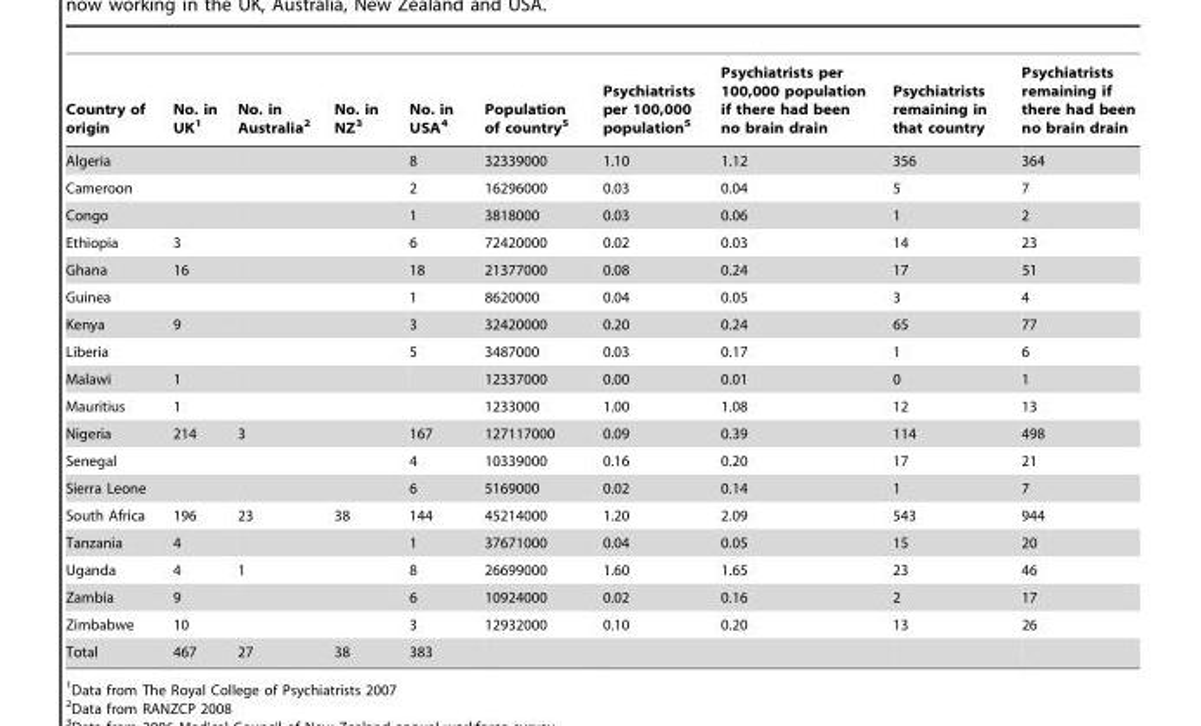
<table><thead><tr><td>Country of origin</td><td>No. in UK<sup>1</sup></td><td>No. in Australia<sup>2</sup></td><td>No. in NZ<sup>3</sup></td><td>No. in USA<sup>4</sup></td><td>Population of country<sup>5</sup></td><td>Psychiatrists per 100,000 population<sup>5</sup></td><td>Psychiatrists per 100,000 population if there had been no brain drain</td><td>Psychiatrists remaining in that country</td><td>Psychiatrists remaining if there had been no brain drain</td></tr></thead><tbody><tr><td>Algeria</td><td></td><td></td><td></td><td>8</td><td>32339000</td><td>1.10</td><td>1.12</td><td>356</td><td>364</td></tr><tr><td>Cameroon</td><td></td><td></td><td></td><td>2</td><td>16296000</td><td>0.03</td><td>0.04</td><td>5</td><td>7</td></tr><tr><td>Congo</td><td></td><td></td><td></td><td>1</td><td>3818000</td><td>0.03</td><td>0.06</td><td>1</td><td>2</td></tr><tr><td>Ethiopia</td><td>3</td><td></td><td></td><td>6</td><td>72420000</td><td>0.02</td><td>0.03</td><td>14</td><td>23</td></tr><tr><td>Ghana</td><td>16</td><td></td><td></td><td>18</td><td>21377000</td><td>0.08</td><td>0.24</td><td>17</td><td>51</td></tr><tr><td>Guinea</td><td></td><td></td><td></td><td>1</td><td>8620000</td><td>0.04</td><td>0.05</td><td>3</td><td>4</td></tr><tr><td>Kenya</td><td>9</td><td></td><td></td><td>3</td><td>32420000</td><td>0.20</td><td>0.24</td><td>65</td><td>77</td></tr><tr><td>Liberia</td><td></td><td></td><td></td><td>5</td><td>3487000</td><td>0.03</td><td>0.17</td><td>1</td><td>6</td></tr><tr><td>Malawi</td><td>1</td><td></td><td></td><td></td><td>12337000</td><td>0.00</td><td>0.01</td><td>0</td><td>1</td></tr><tr><td>Mauritius</td><td>1</td><td></td><td></td><td></td><td>1233000</td><td>1.00</td><td>1.08</td><td>12</td><td>13</td></tr><tr><td>Nigeria</td><td>214</td><td>3</td><td></td><td>167</td><td>127117000</td><td>0.09</td><td>0.39</td><td>114</td><td>498</td></tr><tr><td>Senegal</td><td></td><td></td><td></td><td>4</td><td>10339000</td><td>0.16</td><td>0.20</td><td>17</td><td>21</td></tr><tr><td>Sierra Leone</td><td></td><td></td><td></td><td>6</td><td>5169000</td><td>0.02</td><td>0.14</td><td>1</td><td>7</td></tr><tr><td>South Africa</td><td>196</td><td>23</td><td>38</td><td>144</td><td>45214000</td><td>1.20</td><td>2.09</td><td>543</td><td>944</td></tr><tr><td>Tanzania</td><td>4</td><td></td><td></td><td>1</td><td>37671000</td><td>0.04</td><td>0.05</td><td>15</td><td>20</td></tr><tr><td>Uganda</td><td>4</td><td>1</td><td></td><td>8</td><td>26699000</td><td>1.60</td><td>1.65</td><td>23</td><td>46</td></tr><tr><td>Zambia</td><td>9</td><td></td><td></td><td>6</td><td>10924000</td><td>0.02</td><td>0.16</td><td>2</td><td>17</td></tr><tr><td>Zimbabwe</td><td>10</td><td></td><td></td><td>3</td><td>12932000</td><td>0.10</td><td>0.20</td><td>13</td><td>26</td></tr><tr><td>Total</td><td>467</td><td>27</td><td>38</td><td>383</td><td></td><td></td><td></td><td></td><td></td></tr></tbody></table>